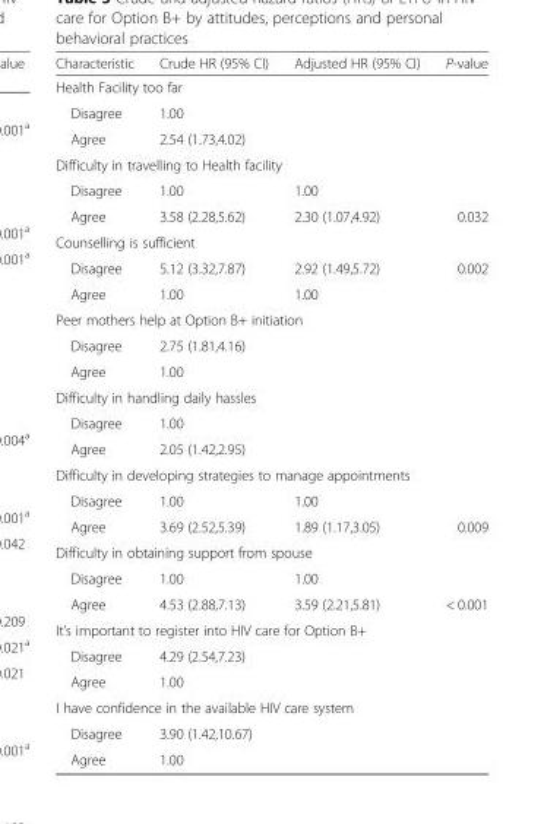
<table><thead><tr><td>Characteristic</td><td>Crude HR (95% CI)</td><td>Adjusted HR (95% CI)</td><td>P-value</td></tr></thead><tbody><tr><td colspan="4">Health Facility too far</td></tr><tr><td>Disagree</td><td>1.00</td><td></td><td></td></tr><tr><td>Agree</td><td>2.54 (1.73,4.02)</td><td></td><td></td></tr><tr><td colspan="4">Difficulty in travelling to Health facility</td></tr><tr><td>Disagree</td><td>1.00</td><td>1.00</td><td></td></tr><tr><td>Agree</td><td>3.58 (2.28,5.62)</td><td>2.30 (1.07,4.92)</td><td>0.032</td></tr><tr><td colspan="4">Counselling is sufficient</td></tr><tr><td>Disagree</td><td>5.12 (3.32,7.87)</td><td>2.92 (1.49,5.72)</td><td>0.002</td></tr><tr><td>Agree</td><td>1.00</td><td>1.00</td><td></td></tr><tr><td colspan="4">Peer mothers help at Option B+ initiation</td></tr><tr><td>Disagree</td><td>2.75 (1.81,4.16)</td><td></td><td></td></tr><tr><td>Agree</td><td>1.00</td><td></td><td></td></tr><tr><td colspan="4">Difficulty in handling daily hassles</td></tr><tr><td>Disagree</td><td>1.00</td><td></td><td></td></tr><tr><td>Agree</td><td>2.05 (1.42,2.95)</td><td></td><td></td></tr><tr><td colspan="4">Difficulty in developing strategies to manage appointments</td></tr><tr><td>Disagree</td><td>1.00</td><td>1.00</td><td></td></tr><tr><td>Agree</td><td>3.69 (2.52,5.39)</td><td>1.89 (1.17,3.05)</td><td>0.009</td></tr><tr><td colspan="4">Difficulty in obtaining support from spouse</td></tr><tr><td>Disagree</td><td>1.00</td><td>1.00</td><td></td></tr><tr><td>Agree</td><td>4.53 (2.88,7.13)</td><td>3.59 (2.21,5.81)</td><td>&lt; 0.001</td></tr><tr><td colspan="4">It’s important to register into HIV care for Option B+</td></tr><tr><td>Disagree</td><td>4.29 (2.54,7.23)</td><td></td><td></td></tr><tr><td>Agree</td><td>1.00</td><td></td><td></td></tr><tr><td colspan="4">I have confidence in the available HIV care system</td></tr><tr><td>Disagree</td><td>3.90 (1.42,10.67)</td><td></td><td></td></tr><tr><td>Agree</td><td>1.00</td><td></td><td></td></tr></tbody></table>